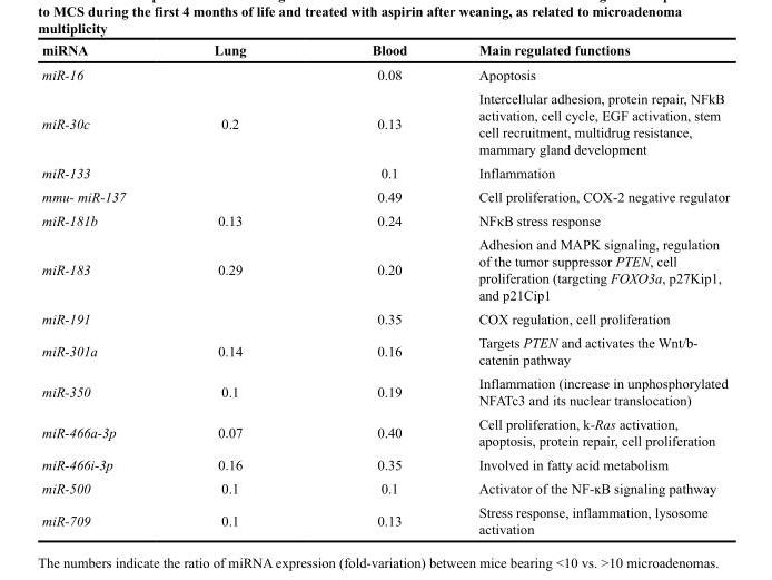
<table><thead><tr><td>miRNA</td><td>Lung</td><td>Blood</td><td>Main regulated functions</td></tr></thead><tbody><tr><td>miR-16</td><td></td><td>0.08</td><td>Apoptosis</td></tr><tr><td>miR-30c</td><td>0.2</td><td>0.13</td><td>Intercellular adhesion, protein repair, NFkB activation, cell cycle, EGF activation, stem cell recruitment, multidrug resistance, mammary gland development</td></tr><tr><td>miR-133</td><td></td><td>0.1</td><td>Inflammation</td></tr><tr><td>mmu- miR-137</td><td></td><td>0.49</td><td>Cell proliferation, COX-2 negative regulator</td></tr><tr><td>miR-181b</td><td>0.13</td><td>0.24</td><td>NFκB stress response</td></tr><tr><td>miR-183</td><td>0.29</td><td>0.20</td><td>Adhesion and MAPK signaling, regulation of the tumor suppressor PTEN, cell proliferation (targeting FOXO3a, p27Kip1, and p21Cip1</td></tr><tr><td>miR-191</td><td></td><td>0.35</td><td>COX regulation, cell proliferation</td></tr><tr><td>miR-301a</td><td>0.14</td><td>0.16</td><td>Targets PTEN and activates the Wnt/b- catenin pathway</td></tr><tr><td>miR-350</td><td>0.1</td><td>0.19</td><td>Inflammation (increase in unphosphorylated NFATc3 and its nuclear translocation)</td></tr><tr><td>miR-466a-3p</td><td>0.07</td><td>0.40</td><td>Cell proliferation, k-Ras activation, apoptosis, protein repair, cell proliferation</td></tr><tr><td>miR-466i-3p</td><td>0.16</td><td>0.35</td><td>Involved in fatty acid metabolism</td></tr><tr><td>miR-500</td><td>0.1</td><td>0.1</td><td>Activator of the NF-ĸB signaling pathway</td></tr><tr><td>miR-709</td><td>0.1</td><td>0.13</td><td>Stress response, inflammation, lysosome activation</td></tr></tbody></table>